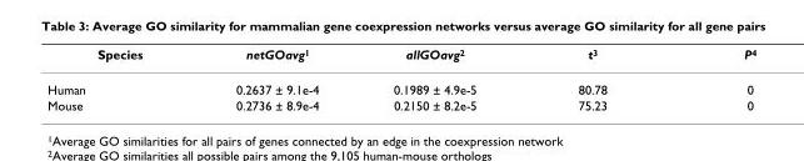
<table><thead><tr><td>Species</td><td>netGOavg<sup>1</sup></td><td>allGOavg<sup>2</sup></td><td>t<sup>3</sup></td><td>P<sup>4</sup></td></tr></thead><tbody><tr><td>Human</td><td>0.2637 ± 9.1e-4</td><td>0.1989 ± 4.9e-5</td><td>80.78</td><td>0</td></tr><tr><td>Mouse</td><td>0.2736 ± 8.9e-4</td><td>0.2150 ± 8.2e-5</td><td>75.23</td><td>0</td></tr></tbody></table>